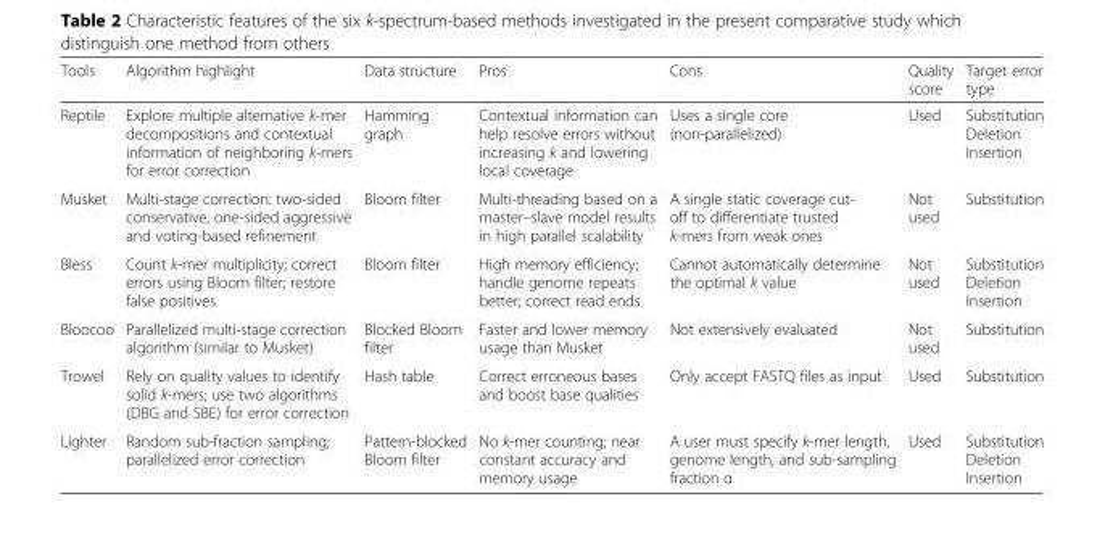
<table><thead><tr><td>Tools</td><td>Algorithm highlight</td><td>Data structure</td><td>Pros</td><td>Cons</td><td>Quality score</td><td>Target error type</td></tr></thead><tbody><tr><td>Reptile</td><td>Explore multiple alternative k-mer decompositions and contextual information of neighboring k-mers for error correction</td><td>Hamming graph</td><td>Contextual information can help resolve errors without increasing k and lowering local coverage</td><td>Uses a single core (non-parallelized)</td><td>Used</td><td>Substitution Deletion Insertion</td></tr><tr><td>Musket</td><td>Multi-stage correction: two-sided conservative, one-sided aggressive and voting-based refinement</td><td>Bloom filter</td><td>Multi-threading based on a master–slave model results in high parallel scalability</td><td>A single static coverage cut- off to differentiate trusted k-mers from weak ones</td><td>Not used</td><td>Substitution</td></tr><tr><td>Bless</td><td>Count k-mer multiplicity; correct errors using Bloom filter; restore false positives</td><td>Bloom filter</td><td>High memory efficiency; handle genome repeats better; correct read ends</td><td>Cannot automatically determine the optimal k value</td><td>Not used</td><td>Substitution Deletion Insertion</td></tr><tr><td>Bloocoo</td><td>Parallelized multi-stage correction algorithm (similar to Musket)</td><td>Blocked Bloom filter</td><td>Faster and lower memory usage than Musket</td><td>Not extensively evaluated</td><td>Not used</td><td>Substitution</td></tr><tr><td>Trowel</td><td>Rely on quality values to identify solid k-mers; use two algorithms (DBG and SBE) for error correction</td><td>Hash table</td><td>Correct erroneous bases and boost base qualities</td><td>Only accept FASTQ files as input</td><td>Used</td><td>Substitution</td></tr><tr><td>Lighter</td><td>Random sub-fraction sampling; parallelized error correction</td><td>Pattern-blocked Bloom filter</td><td>No k-mer counting; near constant accuracy and memory usage</td><td>A user must specify k-mer length, genome length, and sub-sampling fraction α</td><td>Used</td><td>Substitution Deletion Insertion</td></tr></tbody></table>